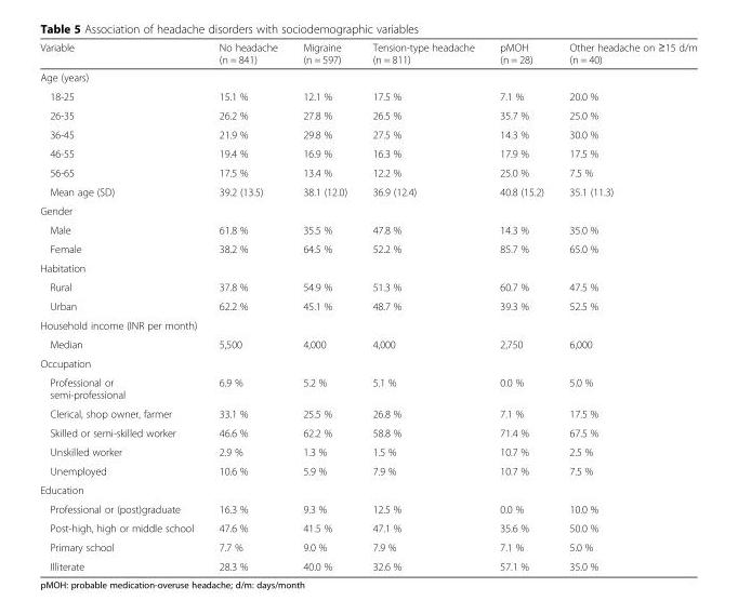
<table><thead><tr><td>Variable</td><td>No headache (n = 841)</td><td>Migraine (n = 597)</td><td>Tension-type headache (n = 811)</td><td>pMOH (n = 28)</td><td>Other headache on ≥15 d/m (n = 40)</td></tr></thead><tbody><tr><td colspan="6">Age (years)</td></tr><tr><td>18-25</td><td>15.1 %</td><td>12.1 %</td><td>17.5 %</td><td>7.1 %</td><td>20.0 %</td></tr><tr><td>26-35</td><td>26.2 %</td><td>27.8 %</td><td>26.5 %</td><td>35.7 %</td><td>25.0 %</td></tr><tr><td>36-45</td><td>21.9 %</td><td>29.8 %</td><td>27.5 %</td><td>14.3 %</td><td>30.0 %</td></tr><tr><td>46-55</td><td>19.4 %</td><td>16.9 %</td><td>16.3 %</td><td>17.9 %</td><td>17.5 %</td></tr><tr><td>56-65</td><td>17.5 %</td><td>13.4 %</td><td>12.2 %</td><td>25.0 %</td><td>7.5 %</td></tr><tr><td>Mean age (SD)</td><td>39.2 (13.5)</td><td>38.1 (12.0)</td><td>36.9 (12.4)</td><td>40.8 (15.2)</td><td>35.1 (11.3)</td></tr><tr><td colspan="6">Gender</td></tr><tr><td>Male</td><td>61.8 %</td><td>35.5 %</td><td>47.8 %</td><td>14.3 %</td><td>35.0 %</td></tr><tr><td>Female</td><td>38.2 %</td><td>64.5 %</td><td>52.2 %</td><td>85.7 %</td><td>65.0 %</td></tr><tr><td colspan="6">Habitation</td></tr><tr><td>Rural</td><td>37.8 %</td><td>54.9 %</td><td>51.3 %</td><td>60.7 %</td><td>47.5 %</td></tr><tr><td>Urban</td><td>62.2 %</td><td>45.1 %</td><td>48.7 %</td><td>39.3 %</td><td>52.5 %</td></tr><tr><td colspan="6">Household income (INR per month)</td></tr><tr><td>Median</td><td>5,500</td><td>4,000</td><td>4,000</td><td>2,750</td><td>6,000</td></tr><tr><td colspan="6">Occupation</td></tr><tr><td>Professional or semi-professional</td><td>6.9 %</td><td>5.2 %</td><td>5.1 %</td><td>0.0 %</td><td>5.0 %</td></tr><tr><td>Clerical, shop owner, farmer</td><td>33.1 %</td><td>25.5 %</td><td>26.8 %</td><td>7.1 %</td><td>17.5 %</td></tr><tr><td>Skilled or semi-skilled worker</td><td>46.6 %</td><td>62.2 %</td><td>58.8 %</td><td>71.4 %</td><td>67.5 %</td></tr><tr><td>Unskilled worker</td><td>2.9 %</td><td>1.3 %</td><td>1.5 %</td><td>10.7 %</td><td>2.5 %</td></tr><tr><td>Unemployed</td><td>10.6 %</td><td>5.9 %</td><td>7.9 %</td><td>10.7 %</td><td>7.5 %</td></tr><tr><td colspan="6">Education</td></tr><tr><td>Professional or (post)graduate</td><td>16.3 %</td><td>9.3 %</td><td>12.5 %</td><td>0.0 %</td><td>10.0 %</td></tr><tr><td>Post-high, high or middle school</td><td>47.6 %</td><td>41.5 %</td><td>47.1 %</td><td>35.6 %</td><td>50.0 %</td></tr><tr><td>Primary school</td><td>7.7 %</td><td>9.0 %</td><td>7.9 %</td><td>7.1 %</td><td>5.0 %</td></tr><tr><td>Illiterate</td><td>28.3 %</td><td>40.0 %</td><td>32.6 %</td><td>57.1 %</td><td>35.0 %</td></tr></tbody></table>